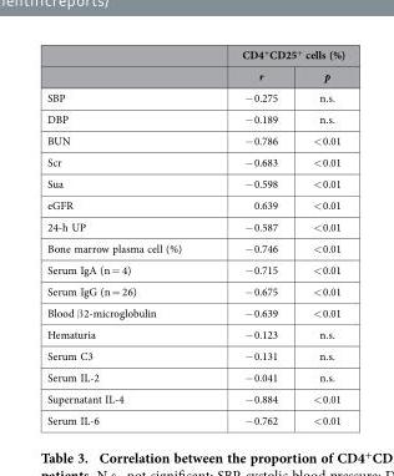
<table><thead><tr><td rowspan="2"></td><td colspan="2">CD4<sup>+</sup>CD25<sup>+</sup> cells (%)</td></tr><tr><td>r</td><td>p</td></tr></thead><tbody><tr><td>SBP</td><td>− 0.275</td><td>n.s.</td></tr><tr><td>DBP</td><td>− 0.189</td><td>n.s.</td></tr><tr><td>BUN</td><td>− 0.786</td><td>&lt; 0.01</td></tr><tr><td>Scr</td><td>− 0.683</td><td>&lt; 0.01</td></tr><tr><td>Sua</td><td>− 0.598</td><td>&lt; 0.01</td></tr><tr><td>eGFR</td><td>0.639</td><td>&lt; 0.01</td></tr><tr><td>24-h UP</td><td>− 0.587</td><td>&lt; 0.01</td></tr><tr><td>Bone marrow plasma cell (%)</td><td>− 0.746</td><td>&lt; 0.01</td></tr><tr><td>Serum IgA (n = 4)</td><td>− 0.715</td><td>&lt; 0.01</td></tr><tr><td>Serum IgG (n = 26)</td><td>− 0.675</td><td>&lt; 0.01</td></tr><tr><td>Blood β 2-microglobulin</td><td>− 0.639</td><td>&lt; 0.01</td></tr><tr><td>Hematuria</td><td>− 0.123</td><td>n.s.</td></tr><tr><td>Serum C3</td><td>− 0.131</td><td>n.s.</td></tr><tr><td>Serum IL-2</td><td>− 0.041</td><td>n.s.</td></tr><tr><td>Supernatant IL-4</td><td>− 0.884</td><td>&lt; 0.01</td></tr><tr><td>Serum IL-6</td><td>− 0.762</td><td>&lt; 0.01</td></tr></tbody></table>